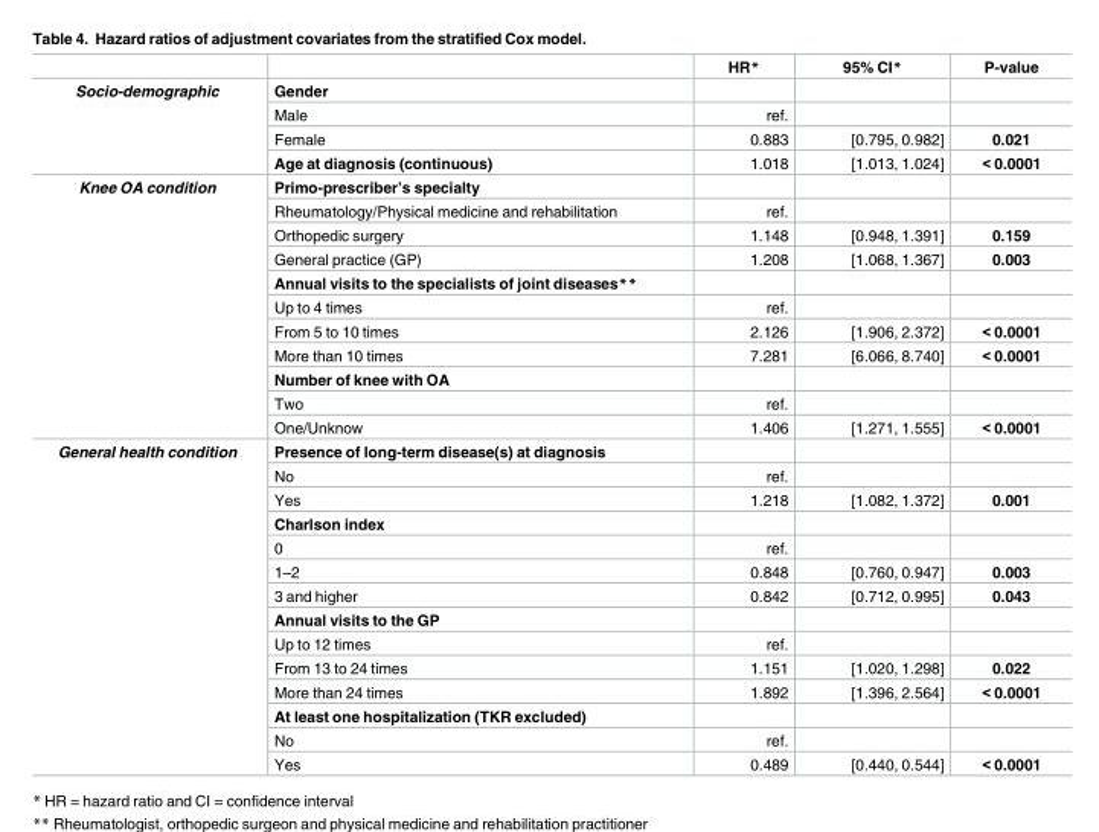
<table><thead><tr><td></td><td></td><td>HR*</td><td>95% CI*</td><td>P-value</td></tr></thead><tbody><tr><td rowspan="4">Socio-demographic</td><td>Gender</td><td></td><td></td><td></td></tr><tr><td>Male</td><td>ref.</td><td></td><td></td></tr><tr><td>Female</td><td>0.883</td><td>[0.795, 0.982]</td><td>0.021</td></tr><tr><td>Age at diagnosis (continuous)</td><td>1.018</td><td>[1.013, 1.024]</td><td>&lt; 0.0001</td></tr><tr><td rowspan="11">Knee OA condition</td><td>Primo-prescriber’s specialty</td><td></td><td></td><td></td></tr><tr><td>Rheumatology/Physical medicine and rehabilitation</td><td>ref.</td><td></td><td></td></tr><tr><td>Orthopedic surgery</td><td>1.148</td><td>[0.948, 1.391]</td><td>0.159</td></tr><tr><td>General practice (GP)</td><td>1.208</td><td>[1.068, 1.367]</td><td>0.003</td></tr><tr><td>Annual visits to the specialists of joint diseases**</td><td></td><td></td><td></td></tr><tr><td>Up to 4 times</td><td>ref.</td><td></td><td></td></tr><tr><td>From 5 to 10 times</td><td>2.126</td><td>[1.906, 2.372]</td><td>&lt; 0.0001</td></tr><tr><td>More than 10 times</td><td>7.281</td><td>[6.066, 8.740]</td><td>&lt; 0.0001</td></tr><tr><td>Number of knee with OA</td><td></td><td></td><td></td></tr><tr><td>Two</td><td>ref.</td><td></td><td></td></tr><tr><td>One/Unknow</td><td>1.406</td><td>[1.271, 1.555]</td><td>&lt; 0.0001</td></tr><tr><td rowspan="14">General health condition</td><td>Presence of long-term disease(s) at diagnosis</td><td></td><td></td><td></td></tr><tr><td>No</td><td>ref.</td><td></td><td></td></tr><tr><td>Yes</td><td>1.218</td><td>[1.082, 1.372]</td><td>0.001</td></tr><tr><td>Charlson index</td><td></td><td></td><td></td></tr><tr><td>0</td><td>ref.</td><td></td><td></td></tr><tr><td>1–2</td><td>0.848</td><td>[0.760, 0.947]</td><td>0.003</td></tr><tr><td>3 and higher</td><td>0.842</td><td>[0.712, 0.995]</td><td>0.043</td></tr><tr><td>Annual visits to the GP</td><td></td><td></td><td></td></tr><tr><td>Up to 12 times</td><td>ref.</td><td></td><td></td></tr><tr><td>From 13 to 24 times</td><td>1.151</td><td>[1.020, 1.298]</td><td>0.022</td></tr><tr><td>More than 24 times</td><td>1.892</td><td>[1.396, 2.564]</td><td>&lt; 0.0001</td></tr><tr><td>At least one hospitalization (TKR excluded)</td><td></td><td></td><td></td></tr><tr><td>No</td><td>ref.</td><td></td><td></td></tr><tr><td>Yes</td><td>0.489</td><td>[0.440, 0.544]</td><td>&lt; 0.0001</td></tr></tbody></table>